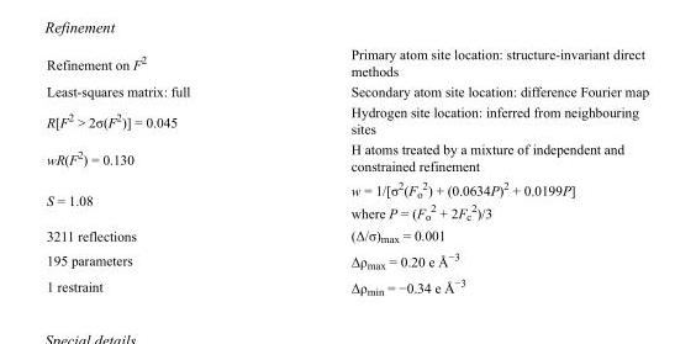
<table><tbody><tr><td>Refinement on F<sup>2</sup></td><td>Primary atom site location: structure-invariant direct methods</td></tr><tr><td>Least-squares matrix: full</td><td>Secondary atom site location: difference Fourier map</td></tr><tr><td>R[F<sup>2</sup> &gt; 2σ(F<sup>2</sup>)] = 0.045</td><td>Hydrogen site location: inferred from neighbouring sites</td></tr><tr><td>wR(F<sup>2</sup>) = 0.130</td><td>H atoms treated by a mixture of independent and constrained refinement</td></tr><tr><td>S = 1.08</td><td>w = 1/[σ<sup>2</sup>(F<sub>o</sub> <sup>2</sup>) + (0.0634P)<sup>2</sup> + 0.0199P] where P = (F<sub>o</sub> <sup>2</sup> + 2F<sub>c</sub> <sup>2</sup>)/3</td></tr><tr><td>3211 reflections</td><td>(Δ/σ)<sub>max</sub> = 0.001</td></tr><tr><td>195 parameters</td><td>Δρ<sub>max</sub> = 0.20 e Å<sup>−3</sup></td></tr><tr><td>1 restraint</td><td>Δρ<sub>min</sub> = −0.34 e Å<sup>−3</sup></td></tr></tbody></table>